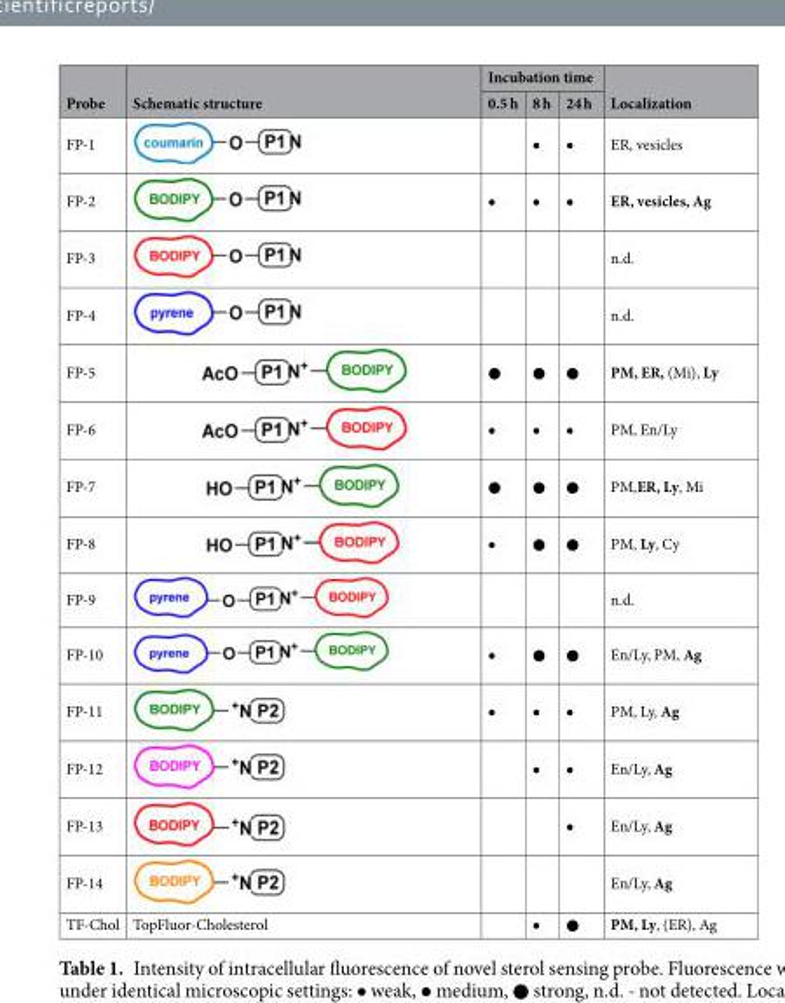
<table><thead><tr><td rowspan="2">Probe</td><td rowspan="2">Schematic structure</td><td colspan="3">Incubation time</td><td rowspan="2">Localization</td></tr><tr><td>0.5 h</td><td>8 h</td><td>24 h</td></tr></thead><tbody><tr><td>FP-1</td><td></td><td></td><td>•</td><td>•</td><td>ER, vesicles</td></tr><tr><td>FP-2</td><td></td><td>•</td><td>•</td><td>•</td><td>ER, vesicles, Ag</td></tr><tr><td>FP-3</td><td></td><td></td><td></td><td></td><td>n.d.</td></tr><tr><td>FP-4</td><td></td><td></td><td></td><td></td><td>n.d.</td></tr><tr><td>FP-5</td><td></td><td>●</td><td>●</td><td>●</td><td>PM, ER, (Mi), Ly</td></tr><tr><td>FP-6</td><td></td><td>•</td><td>•</td><td>•</td><td>PM, En/Ly</td></tr><tr><td>FP-7</td><td></td><td>●</td><td>●</td><td>●</td><td>PM,ER, Ly, Mi</td></tr><tr><td>FP-8</td><td></td><td>•</td><td>●</td><td>●</td><td>PM, Ly, Cy</td></tr><tr><td>FP-9</td><td></td><td></td><td></td><td></td><td>n.d.</td></tr><tr><td>FP-10</td><td></td><td>•</td><td>●</td><td>●</td><td>En/Ly, PM, Ag</td></tr><tr><td>FP-11</td><td></td><td>•</td><td>•</td><td>•</td><td>PM, Ly, Ag</td></tr><tr><td>FP-12</td><td></td><td></td><td>•</td><td>•</td><td>En/Ly, Ag</td></tr><tr><td>FP-13</td><td></td><td></td><td></td><td>•</td><td>En/Ly, Ag</td></tr><tr><td>FP-14</td><td></td><td></td><td></td><td></td><td>En/Ly, Ag</td></tr><tr><td>TF-Chol</td><td>TopFluor-Cholesterol</td><td></td><td>•</td><td>●</td><td>PM, Ly, (ER), Ag</td></tr></tbody></table>